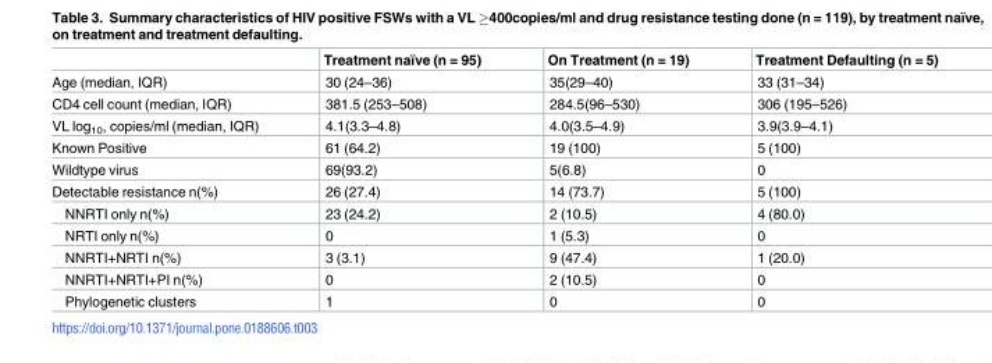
<table><thead><tr><td></td><td>Treatment naïve (n = 95)</td><td>On Treatment (n = 19)</td><td>Treatment Defaulting (n = 5)</td></tr></thead><tbody><tr><td>Age (median, IQR)</td><td>30 (24–36)</td><td>35(29–40)</td><td>33 (31–34)</td></tr><tr><td>CD4 cell count (median, IQR)</td><td>381.5 (253–508)</td><td>284.5(96–530)</td><td>306 (195–526)</td></tr><tr><td>VL log<sub>10</sub>, copies/ml (median, IQR)</td><td>4.1(3.3–4.8)</td><td>4.0(3.5–4.9)</td><td>3.9(3.9–4.1)</td></tr><tr><td>Known Positive</td><td>61 (64.2)</td><td>19 (100)</td><td>5 (100)</td></tr><tr><td>Wildtype virus</td><td>69(93.2)</td><td>5(6.8)</td><td>0</td></tr><tr><td>Detectable resistance n(%)</td><td>26 (27.4)</td><td>14 (73.7)</td><td>5 (100)</td></tr><tr><td>NNRTI only n(%)</td><td>23 (24.2)</td><td>2 (10.5)</td><td>4 (80.0)</td></tr><tr><td>NRTI only n(%)</td><td>0</td><td>1 (5.3)</td><td>0</td></tr><tr><td>NNRTI+NRTI n(%)</td><td>3 (3.1)</td><td>9 (47.4)</td><td>1 (20.0)</td></tr><tr><td>NNRTI+NRTI+PI n(%)</td><td>0</td><td>2 (10.5)</td><td>0</td></tr><tr><td>Phylogenetic clusters</td><td>1</td><td>0</td><td>0</td></tr></tbody></table>